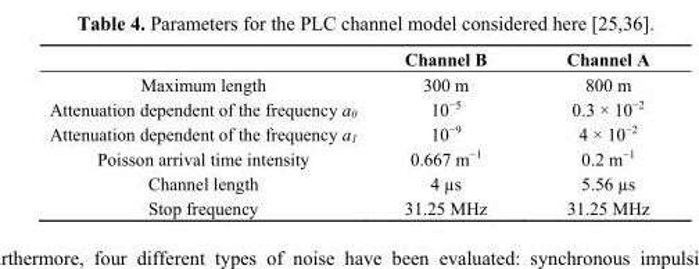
<table><thead><tr><td></td><td>Channel B</td><td>Channel A</td></tr></thead><tbody><tr><td>Maximum length</td><td>300 m</td><td>800 m</td></tr><tr><td>Attenuation dependent of the frequency a<sub>0</sub></td><td>10<sup>−5</sup></td><td>0.3 × 10<sup>−2</sup></td></tr><tr><td>Attenuation dependent of the frequency a<sub>1</sub></td><td>10<sup>−9</sup></td><td>4 × 10<sup>−2</sup></td></tr><tr><td>Poisson arrival time intensity</td><td>0.667 m<sup>−1</sup></td><td>0.2 m<sup>−1</sup></td></tr><tr><td>Channel length</td><td>4 µs</td><td>5.56 µs</td></tr><tr><td>Stop frequency</td><td>31.25 MHz</td><td>31.25 MHz</td></tr></tbody></table>